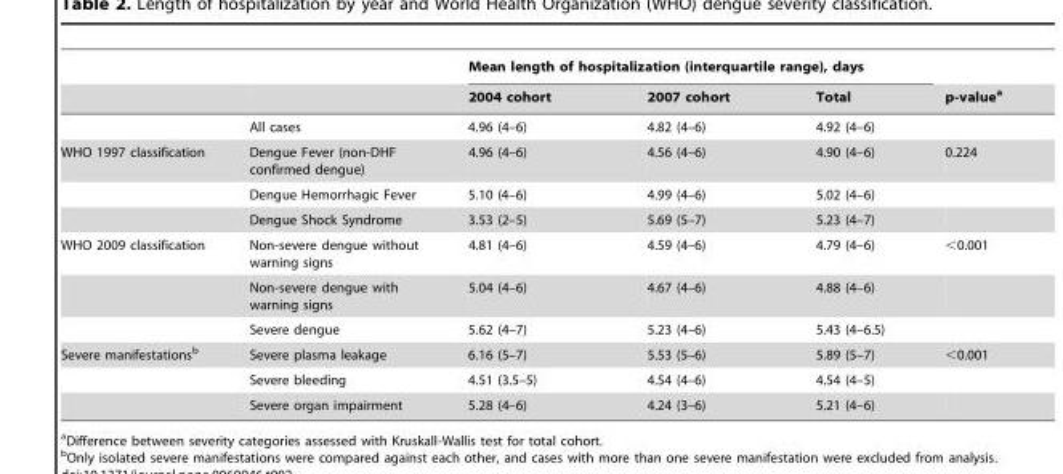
<table><thead><tr><td rowspan="2"></td><td rowspan="2"></td><td colspan="3">Mean length of hospitalization (interquartile range), days</td><td rowspan="2">p-value<sup>a</sup></td></tr><tr><td>2004 cohort</td><td>2007 cohort</td><td>Total</td></tr></thead><tbody><tr><td></td><td>All cases</td><td>4.96 (4–6)</td><td>4.82 (4–6)</td><td>4.92 (4–6)</td><td></td></tr><tr><td rowspan="3">WHO 1997 classification</td><td>Dengue Fever (non-DHF confirmed dengue)</td><td>4.96 (4–6)</td><td>4.56 (4–6)</td><td>4.90 (4–6)</td><td>0.224</td></tr><tr><td>Dengue Hemorrhagic Fever</td><td>5.10 (4–6)</td><td>4.99 (4–6)</td><td>5.02 (4–6)</td><td></td></tr><tr><td>Dengue Shock Syndrome</td><td>3.53 (2–5)</td><td>5.69 (5–7)</td><td>5.23 (4–7)</td><td></td></tr><tr><td rowspan="3">WHO 2009 classification</td><td>Non-severe dengue without warning signs</td><td>4.81 (4–6)</td><td>4.59 (4–6)</td><td>4.79 (4–6)</td><td>&lt;0.001</td></tr><tr><td>Non-severe dengue with warning signs</td><td>5.04 (4–6)</td><td>4.67 (4–6)</td><td>4.88 (4–6)</td><td></td></tr><tr><td>Severe dengue</td><td>5.62 (4–7)</td><td>5.23 (4–6)</td><td>5.43 (4–6.5)</td><td></td></tr><tr><td rowspan="3">Severe manifestations<sup>b</sup></td><td>Severe plasma leakage</td><td>6.16 (5–7)</td><td>5.53 (5–6)</td><td>5.89 (5–7)</td><td>&lt;0.001</td></tr><tr><td>Severe bleeding</td><td>4.51 (3.5–5)</td><td>4.54 (4–6)</td><td>4.54 (4–5)</td><td></td></tr><tr><td>Severe organ impairment</td><td>5.28 (4–6)</td><td>4.24 (3–6)</td><td>5.21 (4–6)</td><td></td></tr></tbody></table>